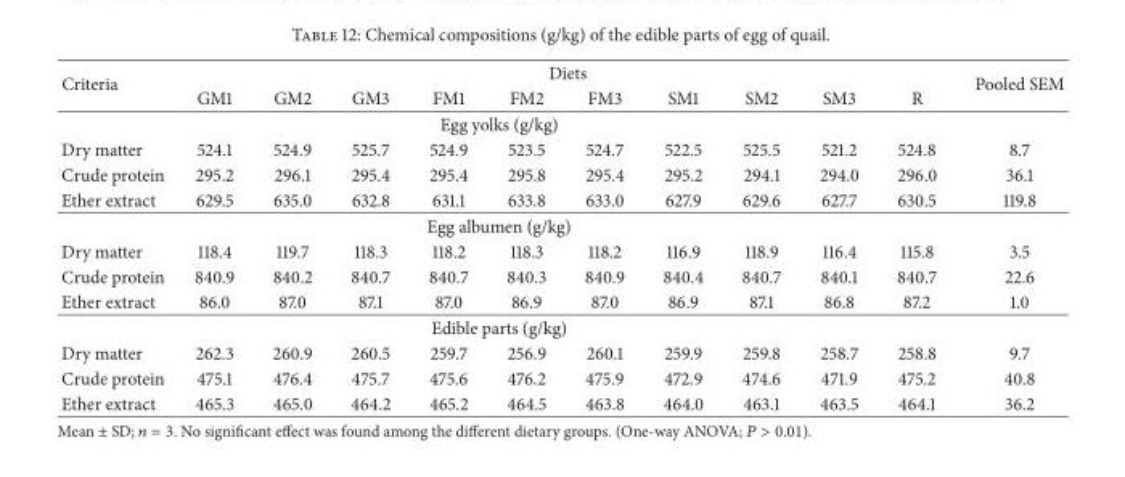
<table><thead><tr><td rowspan="2">Criteria</td><td colspan="10">Diets</td><td rowspan="2">Pooled SEM</td></tr><tr><td>GM1</td><td>GM2</td><td>GM3</td><td>FM1</td><td>FM2</td><td>FM3</td><td>SM1</td><td>SM2</td><td>SM3</td><td>R</td></tr></thead><tbody><tr><td colspan="12">Egg yolks (g/kg)</td></tr><tr><td>Dry matter</td><td>524.1</td><td>524.9</td><td>525.7</td><td>524.9</td><td>523.5</td><td>524.7</td><td>522.5</td><td>525.5</td><td>521.2</td><td>524.8</td><td>8.7</td></tr><tr><td>Crude protein</td><td>295.2</td><td>296.1</td><td>295.4</td><td>295.4</td><td>295.8</td><td>295.4</td><td>295.2</td><td>294.1</td><td>294.0</td><td>296.0</td><td>36.1</td></tr><tr><td>Ether extract</td><td>629.5</td><td>635.0</td><td>632.8</td><td>631.1</td><td>633.8</td><td>633.0</td><td>627.9</td><td>629.6</td><td>627.7</td><td>630.5</td><td>119.8</td></tr><tr><td colspan="12">Egg albumen (g/kg)</td></tr><tr><td>Dry matter</td><td>118.4</td><td>119.7</td><td>118.3</td><td>118.2</td><td>118.3</td><td>118.2</td><td>116.9</td><td>118.9</td><td>116.4</td><td>115.8</td><td>3.5</td></tr><tr><td>Crude protein</td><td>840.9</td><td>840.2</td><td>840.7</td><td>840.7</td><td>840.3</td><td>840.9</td><td>840.4</td><td>840.7</td><td>840.1</td><td>840.7</td><td>22.6</td></tr><tr><td>Ether extract</td><td>86.0</td><td>87.0</td><td>87.1</td><td>87.0</td><td>86.9</td><td>87.0</td><td>86.9</td><td>87.1</td><td>86.8</td><td>87.2</td><td>1.0</td></tr><tr><td colspan="12">Edible parts (g/kg)</td></tr><tr><td>Dry matter</td><td>262.3</td><td>260.9</td><td>260.5</td><td>259.7</td><td>256.9</td><td>260.1</td><td>259.9</td><td>259.8</td><td>258.7</td><td>258.8</td><td>9.7</td></tr><tr><td>Crude protein</td><td>475.1</td><td>476.4</td><td>475.7</td><td>475.6</td><td>476.2</td><td>475.9</td><td>472.9</td><td>474.6</td><td>471.9</td><td>475.2</td><td>40.8</td></tr><tr><td>Ether extract</td><td>465.3</td><td>465.0</td><td>464.2</td><td>465.2</td><td>464.5</td><td>463.8</td><td>464.0</td><td>463.1</td><td>463.5</td><td>464.1</td><td>36.2</td></tr></tbody></table>